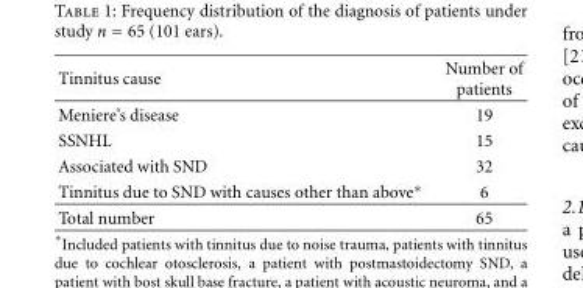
<table><thead><tr><td>Tinnitus cause</td><td>Number of patients</td></tr></thead><tbody><tr><td>Meniere’s disease</td><td>19</td></tr><tr><td>SSNHL</td><td>15</td></tr><tr><td>Associated with SND</td><td>32</td></tr><tr><td>Tinnitus due to SND with causes other than above∗</td><td>6</td></tr><tr><td>Total number</td><td>65</td></tr></tbody></table>